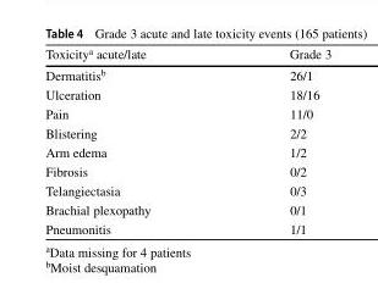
<table><thead><tr><td>Toxicity<sup>a</sup> acute/late</td><td>Grade 3</td></tr></thead><tbody><tr><td>Dermatitis<sup>b</sup></td><td>26/1</td></tr><tr><td>Ulceration</td><td>18/16</td></tr><tr><td>Pain</td><td>11/0</td></tr><tr><td>Blistering</td><td>2/2</td></tr><tr><td>Arm edema</td><td>1/2</td></tr><tr><td>Fibrosis</td><td>0/2</td></tr><tr><td>Telangiectasia</td><td>0/3</td></tr><tr><td>Brachial plexopathy</td><td>0/1</td></tr><tr><td>Pneumonitis</td><td>1/1</td></tr></tbody></table>